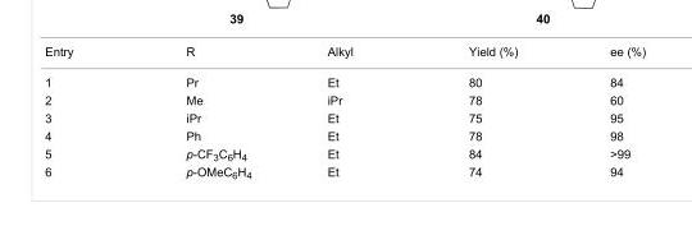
<table><tbody><tr><td>Entry</td><td>R</td><td>Alkyl</td><td>Yield (%)</td><td>ee (%)</td></tr><tr><td>1</td><td>Pr</td><td>Et</td><td>80</td><td>84</td></tr><tr><td>2</td><td>Me</td><td>iPr</td><td>78</td><td>60</td></tr><tr><td>3</td><td>iPr</td><td>Et</td><td>75</td><td>95</td></tr><tr><td>4</td><td>Ph</td><td>Et</td><td>78</td><td>98</td></tr><tr><td>5</td><td>p-CF<sub>3</sub>C<sub>6</sub>H<sub>4</sub></td><td>Et</td><td>84</td><td>&gt;99</td></tr><tr><td>6</td><td>p-OMeC<sub>6</sub>H<sub>4</sub></td><td>Et</td><td>74</td><td>94</td></tr></tbody></table>